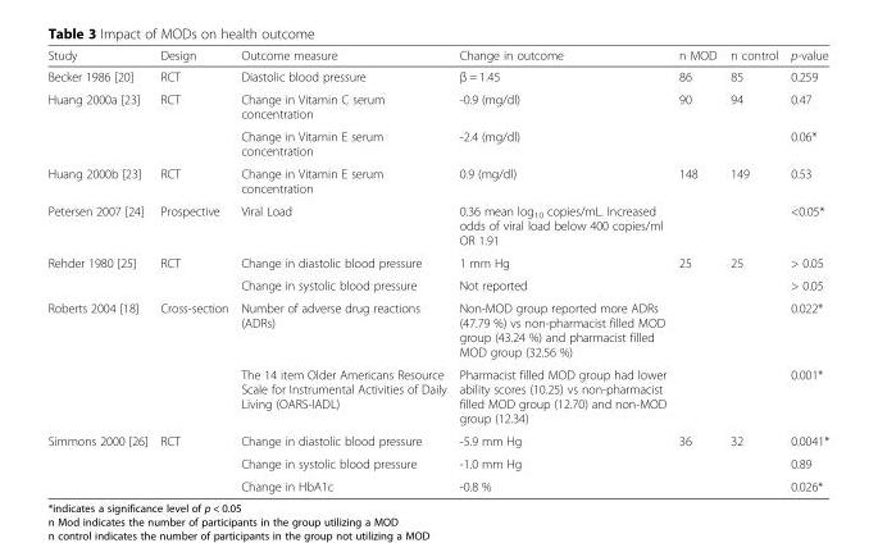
<table><thead><tr><td>Study</td><td>Design</td><td>Outcome measure</td><td>Change in outcome</td><td>n MOD</td><td>n control</td><td>p-value</td></tr></thead><tbody><tr><td>Becker 1986 [20]</td><td>RCT</td><td>Diastolic blood pressure</td><td>β = 1.45</td><td>86</td><td>85</td><td>0.259</td></tr><tr><td rowspan="2">Huang 2000a [23]</td><td rowspan="2">RCT</td><td>Change in Vitamin C serum concentration</td><td>-0.9 (mg/dl)</td><td>90</td><td>94</td><td>0.47</td></tr><tr><td>Change in Vitamin E serum concentration</td><td>-2.4 (mg/dl)</td><td></td><td></td><td>0.06*</td></tr><tr><td>Huang 2000b [23]</td><td>RCT</td><td>Change in Vitamin E serum concentration</td><td>0.9 (mg/dl)</td><td>148</td><td>149</td><td>0.53</td></tr><tr><td>Petersen 2007 [24]</td><td>Prospective</td><td>Viral Load</td><td>0.36 mean log<sub>10</sub> copies/mL. Increased odds of viral load below 400 copies/ml OR 1.91</td><td></td><td></td><td>&lt;0.05*</td></tr><tr><td rowspan="2">Rehder 1980 [25]</td><td rowspan="2">RCT</td><td>Change in diastolic blood pressure</td><td>1 mm Hg</td><td>25</td><td>25</td><td>&gt; 0.05</td></tr><tr><td>Change in systolic blood pressure</td><td>Not reported</td><td></td><td></td><td>&gt; 0.05</td></tr><tr><td rowspan="2">Roberts 2004 [18]</td><td rowspan="2">Cross-section</td><td>Number of adverse drug reactions (ADRs)</td><td>Non-MOD group reported more ADRs (47.79 %) vs non-pharmacist filled MOD group (43.24 %) and pharmacist filled MOD group (32.56 %)</td><td></td><td></td><td>0.022*</td></tr><tr><td>The 14 item Older Americans Resource Scale for Instrumental Activities of Daily Living (OARS-IADL)</td><td>Pharmacist filled MOD group had lower ability scores (10.25) vs non-pharmacist filled MOD group (12.70) and non-MOD group (12.34)</td><td></td><td></td><td>0.001*</td></tr><tr><td rowspan="3">Simmons 2000 [26]</td><td rowspan="3">RCT</td><td>Change in diastolic blood pressure</td><td>-5.9 mm Hg</td><td>36</td><td>32</td><td>0.0041*</td></tr><tr><td>Change in systolic blood pressure</td><td>-1.0 mm Hg</td><td></td><td></td><td>0.89</td></tr><tr><td>Change in HbA1c</td><td>-0.8 %</td><td></td><td></td><td>0.026*</td></tr></tbody></table>